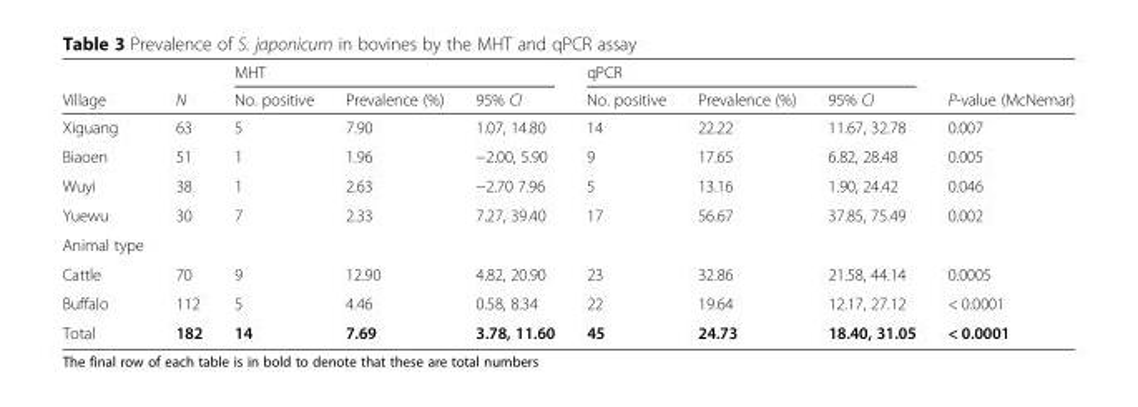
<table><thead><tr><td rowspan="2">Village</td><td rowspan="2">N</td><td colspan="3">MHT</td><td colspan="3">qPCR</td><td rowspan="2">P-value (McNemar)</td></tr><tr><td>No. positive</td><td>Prevalence (%)</td><td>95% CI</td><td>No. positive</td><td>Prevalence (%)</td><td>95% CI</td></tr></thead><tbody><tr><td>Xiguang</td><td>63</td><td>5</td><td>7.90</td><td>1.07, 14.80</td><td>14</td><td>22.22</td><td>11.67, 32.78</td><td>0.007</td></tr><tr><td>Biaoen</td><td>51</td><td>1</td><td>1.96</td><td>−2.00, 5.90</td><td>9</td><td>17.65</td><td>6.82, 28.48</td><td>0.005</td></tr><tr><td>Wuyi</td><td>38</td><td>1</td><td>2.63</td><td>−2.70 7.96</td><td>5</td><td>13.16</td><td>1.90, 24.42</td><td>0.046</td></tr><tr><td>Yuewu</td><td>30</td><td>7</td><td>2.33</td><td>7.27, 39.40</td><td>17</td><td>56.67</td><td>37.85, 75.49</td><td>0.002</td></tr><tr><td colspan="9">Animal type</td></tr><tr><td>Cattle</td><td>70</td><td>9</td><td>12.90</td><td>4.82, 20.90</td><td>23</td><td>32.86</td><td>21.58, 44.14</td><td>0.0005</td></tr><tr><td>Buffalo</td><td>112</td><td>5</td><td>4.46</td><td>0.58, 8.34</td><td>22</td><td>19.64</td><td>12.17, 27.12</td><td>&lt; 0.0001</td></tr><tr><td>Total</td><td>182</td><td>14</td><td>7.69</td><td>3.78, 11.60</td><td>45</td><td>24.73</td><td>18.40, 31.05</td><td>&lt; 0.0001</td></tr></tbody></table>